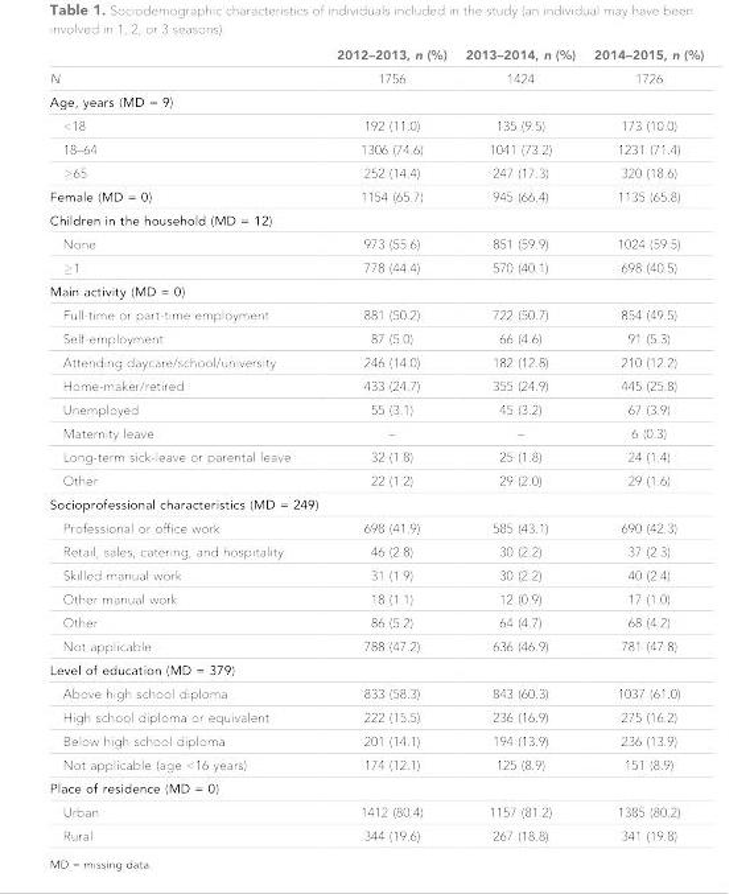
<table><thead><tr><td></td><td>2012–2013, n (%)</td><td>2013–2014, n (%)</td><td>2014–2015, n (%)</td></tr></thead><tbody><tr><td>N</td><td>1756</td><td>1424</td><td>1726</td></tr><tr><td colspan="4">Age, years (MD = 9)</td></tr><tr><td>&lt;18</td><td>192 (11.0)</td><td>135 (9.5)</td><td>173 (10.0)</td></tr><tr><td>18–64</td><td>1306 (74.6)</td><td>1041 (73.2)</td><td>1231 (71.4)</td></tr><tr><td>≥65</td><td>252 (14.4)</td><td>247 (17.3)</td><td>320 (18.6)</td></tr><tr><td>Female (MD = 0)</td><td>1154 (65.7)</td><td>945 (66.4)</td><td>1135 (65.8)</td></tr><tr><td colspan="4">Children in the household (MD = 12)</td></tr><tr><td>None</td><td>973 (55.6)</td><td>851 (59.9)</td><td>1024 (59.5)</td></tr><tr><td>≥1</td><td>778 (44.4)</td><td>570 (40.1)</td><td>698 (40.5)</td></tr><tr><td colspan="4">Main activity (MD = 0)</td></tr><tr><td>Full-time or part-time employment</td><td>881 (50.2)</td><td>722 (50.7)</td><td>854 (49.5)</td></tr><tr><td>Self-employment</td><td>87 (5.0)</td><td>66 (4.6)</td><td>91 (5.3)</td></tr><tr><td>Attending daycare/school/university</td><td>246 (14.0)</td><td>182 (12.8)</td><td>210 (12.2)</td></tr><tr><td>Home-maker/retired</td><td>433 (24.7)</td><td>355 (24.9)</td><td>445 (25.8)</td></tr><tr><td>Unemployed</td><td>55 (3.1)</td><td>45 (3.2)</td><td>67 (3.9)</td></tr><tr><td>Maternity leave</td><td>–</td><td>–</td><td>6 (0.3)</td></tr><tr><td>Long-term sick-leave or parental leave</td><td>32 (1.8)</td><td>25 (1.8)</td><td>24 (1.4)</td></tr><tr><td>Other</td><td>22 (1.2)</td><td>29 (2.0)</td><td>29 (1.6)</td></tr><tr><td colspan="4">Socioprofessional characteristics (MD = 249)</td></tr><tr><td>Professional or office work</td><td>698 (41.9)</td><td>585 (43.1)</td><td>690 (42.3)</td></tr><tr><td>Retail, sales, catering, and hospitality</td><td>46 (2.8)</td><td>30 (2.2)</td><td>37 (2.3)</td></tr><tr><td>Skilled manual work</td><td>31 (1.9)</td><td>30 (2.2)</td><td>40 (2.4)</td></tr><tr><td>Other manual work</td><td>18 (1.1)</td><td>12 (0.9)</td><td>17 (1.0)</td></tr><tr><td>Other</td><td>86 (5.2)</td><td>64 (4.7)</td><td>68 (4.2)</td></tr><tr><td>Not applicable</td><td>788 (47.2)</td><td>636 (46.9)</td><td>781 (47.8)</td></tr><tr><td colspan="4">Level of education (MD = 379)</td></tr><tr><td>Above high school diploma</td><td>833 (58.3)</td><td>843 (60.3)</td><td>1037 (61.0)</td></tr><tr><td>High school diploma or equivalent</td><td>222 (15.5)</td><td>236 (16.9)</td><td>275 (16.2)</td></tr><tr><td>Below high school diploma</td><td>201 (14.1)</td><td>194 (13.9)</td><td>236 (13.9)</td></tr><tr><td>Not applicable (age &lt;16 years)</td><td>174 (12.1)</td><td>125 (8.9)</td><td>151 (8.9)</td></tr><tr><td colspan="4">Place of residence (MD = 0)</td></tr><tr><td>Urban</td><td>1412 (80.4)</td><td>1157 (81.2)</td><td>1385 (80.2)</td></tr><tr><td>Rural</td><td>344 (19.6)</td><td>267 (18.8)</td><td>341 (19.8)</td></tr></tbody></table>